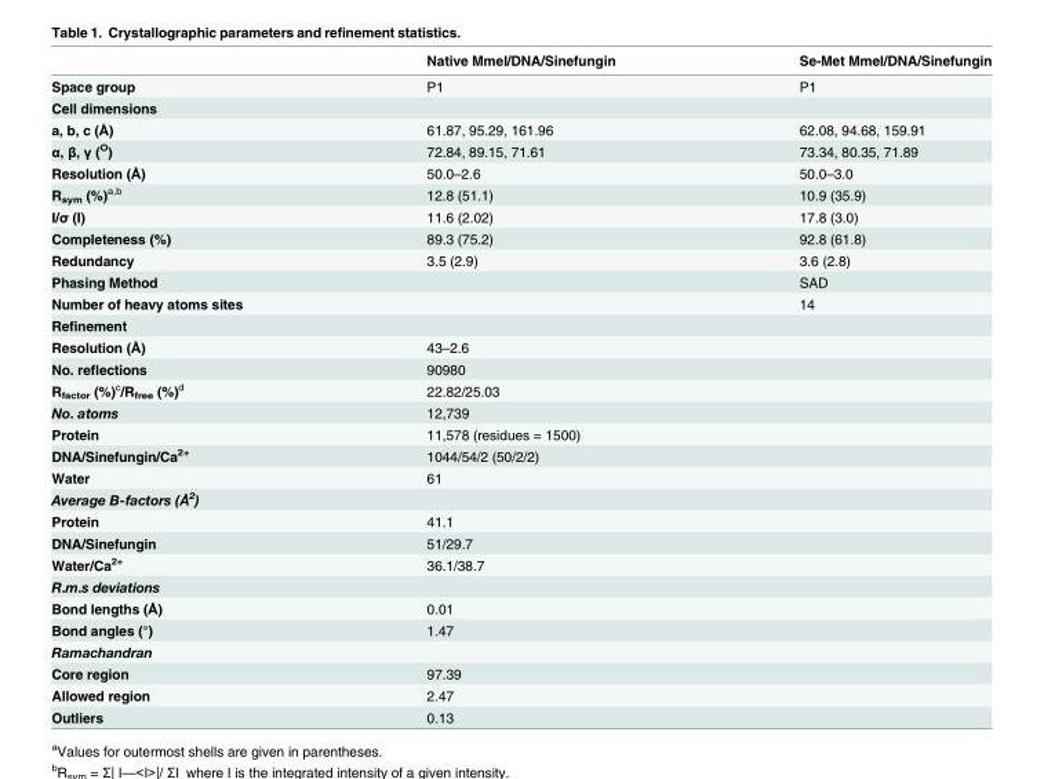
<table><thead><tr><td></td><td>Native MmeI/DNA/Sinefungin</td><td>Se-Met MmeI/DNA/Sinefungin</td></tr></thead><tbody><tr><td>Space group</td><td>P1</td><td>P1</td></tr><tr><td colspan="3">Cell dimensions</td></tr><tr><td>a, b, c (Å)</td><td>61.87, 95.29, 161.96</td><td>62.08, 94.68, 159.91</td></tr><tr><td>α, β, γ (<sup>O</sup>)</td><td>72.84, 89.15, 71.61</td><td>73.34, 80.35, 71.89</td></tr><tr><td>Resolution (Å)</td><td>50.0–2.6</td><td>50.0–3.0</td></tr><tr><td>R<sub>sym</sub> (%)<sup>a,b</sup></td><td>12.8 (51.1)</td><td>10.9 (35.9)</td></tr><tr><td>I/σ (I)</td><td>11.6 (2.02)</td><td>17.8 (3.0)</td></tr><tr><td>Completeness (%)</td><td>89.3 (75.2)</td><td>92.8 (61.8)</td></tr><tr><td>Redundancy</td><td>3.5 (2.9)</td><td>3.6 (2.8)</td></tr><tr><td>Phasing Method</td><td></td><td>SAD</td></tr><tr><td>Number of heavy atoms sites</td><td></td><td>14</td></tr><tr><td colspan="3">Refinement</td></tr><tr><td>Resolution (Å)</td><td>43–2.6</td><td></td></tr><tr><td>No. reflections</td><td>90980</td><td></td></tr><tr><td>R<sub>factor</sub> (%)<sup>c</sup>/R<sub>free</sub> (%)<sup>d</sup></td><td>22.82/25.03</td><td></td></tr><tr><td>No. atoms</td><td>12,739</td><td></td></tr><tr><td>Protein</td><td>11,578 (residues = 1500)</td><td></td></tr><tr><td>DNA/Sinefungin/Ca<sup>2+</sup></td><td>1044/54/2 (50/2/2)</td><td></td></tr><tr><td>Water</td><td>61</td><td></td></tr><tr><td colspan="3">Average B-factors (Å<sup>2</sup>)</td></tr><tr><td>Protein</td><td>41.1</td><td></td></tr><tr><td>DNA/Sinefungin</td><td>51/29.7</td><td></td></tr><tr><td>Water/Ca<sup>2+</sup></td><td>36.1/38.7</td><td></td></tr><tr><td colspan="3">R.m.s deviations</td></tr><tr><td>Bond lengths (Å)</td><td>0.01</td><td></td></tr><tr><td>Bond angles (°)</td><td>1.47</td><td></td></tr><tr><td colspan="3">Ramachandran</td></tr><tr><td>Core region</td><td>97.39</td><td></td></tr><tr><td>Allowed region</td><td>2.47</td><td></td></tr><tr><td>Outliers</td><td>0.13</td><td></td></tr></tbody></table>